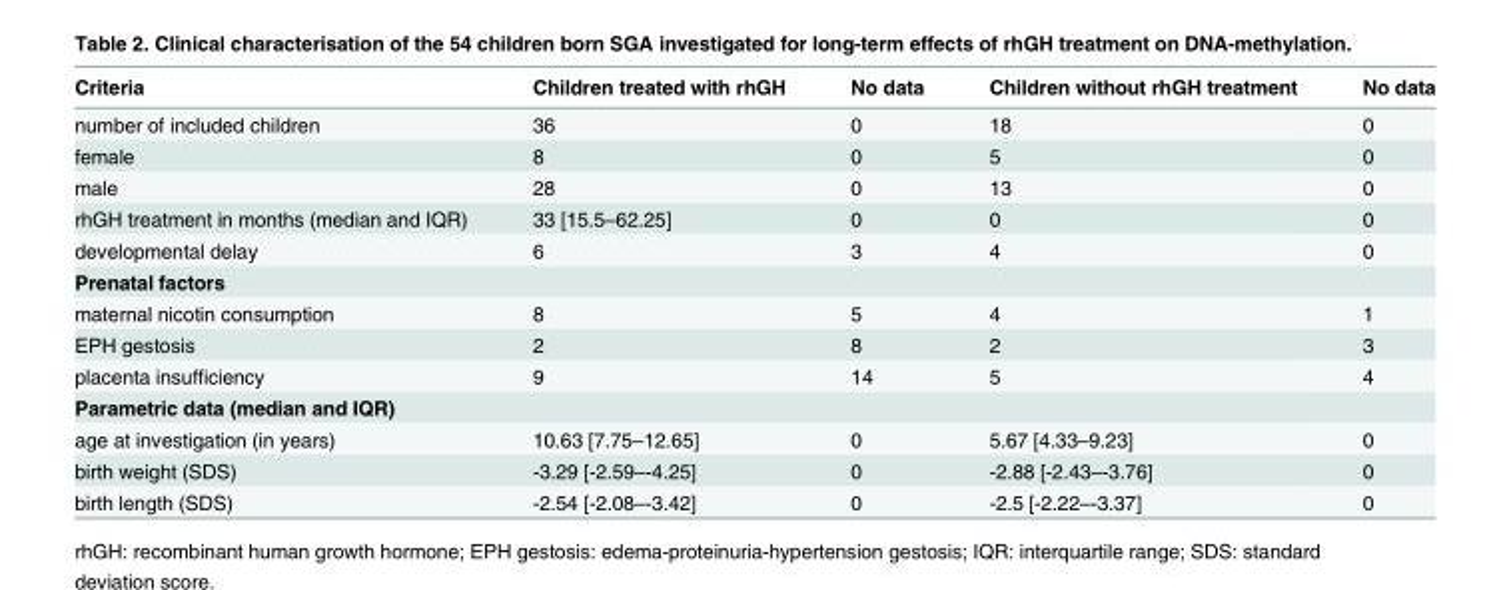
<table><thead><tr><td>Criteria</td><td>Children treated with rhGH</td><td>No data</td><td>Children without rhGH treatment</td><td>No data</td></tr></thead><tbody><tr><td>number of included children</td><td>36</td><td>0</td><td>18</td><td>0</td></tr><tr><td>female</td><td>8</td><td>0</td><td>5</td><td>0</td></tr><tr><td>male</td><td>28</td><td>0</td><td>13</td><td>0</td></tr><tr><td>rhGH treatment in months (median and IQR)</td><td>33 [15.5–62.25]</td><td>0</td><td>0</td><td>0</td></tr><tr><td>developmental delay</td><td>6</td><td>3</td><td>4</td><td>0</td></tr><tr><td colspan="5">Prenatal factors</td></tr><tr><td>maternal nicotin consumption</td><td>8</td><td>5</td><td>4</td><td>1</td></tr><tr><td>EPH gestosis</td><td>2</td><td>8</td><td>2</td><td>3</td></tr><tr><td>placenta insufficiency</td><td>9</td><td>14</td><td>5</td><td>4</td></tr><tr><td colspan="5">Parametric data (median and IQR)</td></tr><tr><td>age at investigation (in years)</td><td>10.63 [7.75–12.65]</td><td>0</td><td>5.67 [4.33–9.23]</td><td>0</td></tr><tr><td>birth weight (SDS)</td><td>-3.29 [-2.59–-4.25]</td><td>0</td><td>-2.88 [-2.43–-3.76]</td><td>0</td></tr><tr><td>birth length (SDS)</td><td>-2.54 [-2.08–-3.42]</td><td>0</td><td>-2.5 [-2.22–-3.37]</td><td>0</td></tr></tbody></table>